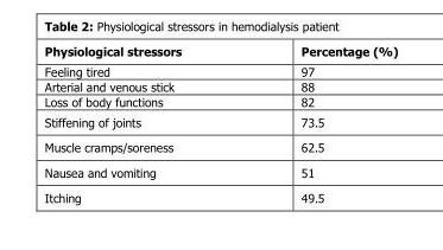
<table><thead><tr><td>Physiological stressors</td><td>Percentage (%)</td></tr></thead><tbody><tr><td>Feeling tired</td><td>97</td></tr><tr><td>Arterial and venous stick</td><td>88</td></tr><tr><td>Loss of body functions</td><td>82</td></tr><tr><td>Stiffening of joints</td><td>73.5</td></tr><tr><td>Muscle cramps/soreness</td><td>62.5</td></tr><tr><td>Nausea and vomiting</td><td>51</td></tr><tr><td>Itching</td><td>49.5</td></tr></tbody></table>